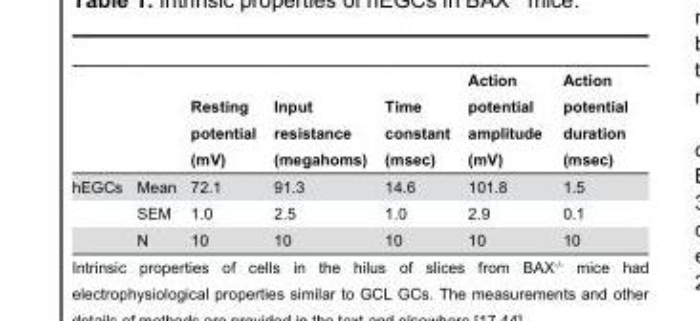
<table><thead><tr><td></td><td></td><td>Resting potential (mV)</td><td>Input resistance (megahoms)</td><td>Time constant (msec)</td><td>Action potential amplitude (mV)</td><td>Action potential duration (msec)</td></tr></thead><tbody><tr><td rowspan="3">hEGCs</td><td>Mean</td><td>72.1</td><td>91.3</td><td>14.6</td><td>101.8</td><td>1.5</td></tr><tr><td>SEM</td><td>1.0</td><td>2.5</td><td>1.0</td><td>2.9</td><td>0.1</td></tr><tr><td>N</td><td>10</td><td>10</td><td>10</td><td>10</td><td>10</td></tr></tbody></table>